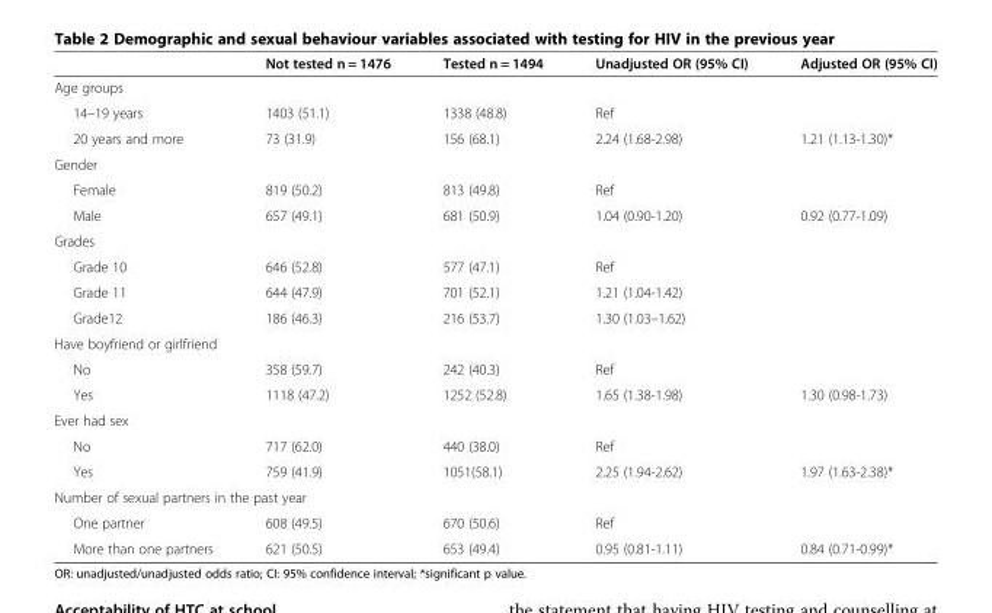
<table><thead><tr><td></td><td>Not tested n = 1476</td><td>Tested n = 1494</td><td>Unadjusted OR (95% CI)</td><td>Adjusted OR (95% CI)</td></tr></thead><tbody><tr><td colspan="5">Age groups</td></tr><tr><td>14–19 years</td><td>1403 (51.1)</td><td>1338 (48.8)</td><td>Ref</td><td></td></tr><tr><td>20 years and more</td><td>73 (31.9)</td><td>156 (68.1)</td><td>2.24 (1.68-2.98)</td><td>1.21 (1.13-1.30)*</td></tr><tr><td colspan="5">Gender</td></tr><tr><td>Female</td><td>819 (50.2)</td><td>813 (49.8)</td><td>Ref</td><td></td></tr><tr><td>Male</td><td>657 (49.1)</td><td>681 (50.9)</td><td>1.04 (0.90-1.20)</td><td>0.92 (0.77-1.09)</td></tr><tr><td colspan="5">Grades</td></tr><tr><td>Grade 10</td><td>646 (52.8)</td><td>577 (47.1)</td><td>Ref</td><td></td></tr><tr><td>Grade 11</td><td>644 (47.9)</td><td>701 (52.1)</td><td>1.21 (1.04-1.42)</td><td></td></tr><tr><td>Grade12</td><td>186 (46.3)</td><td>216 (53.7)</td><td>1.30 (1.03–1.62)</td><td></td></tr><tr><td colspan="5">Have boyfriend or girlfriend</td></tr><tr><td>No</td><td>358 (59.7)</td><td>242 (40.3)</td><td>Ref</td><td></td></tr><tr><td>Yes</td><td>1118 (47.2)</td><td>1252 (52.8)</td><td>1.65 (1.38-1.98)</td><td>1.30 (0.98-1.73)</td></tr><tr><td colspan="5">Ever had sex</td></tr><tr><td>No</td><td>717 (62.0)</td><td>440 (38.0)</td><td>Ref</td><td></td></tr><tr><td>Yes</td><td>759 (41.9)</td><td>1051(58.1)</td><td>2.25 (1.94-2.62)</td><td>1.97 (1.63-2.38)*</td></tr><tr><td colspan="5">Number of sexual partners in the past year</td></tr><tr><td>One partner</td><td>608 (49.5)</td><td>670 (50.6)</td><td>Ref</td><td></td></tr><tr><td>More than one partners</td><td>621 (50.5)</td><td>653 (49.4)</td><td>0.95 (0.81-1.11)</td><td>0.84 (0.71-0.99)*</td></tr></tbody></table>